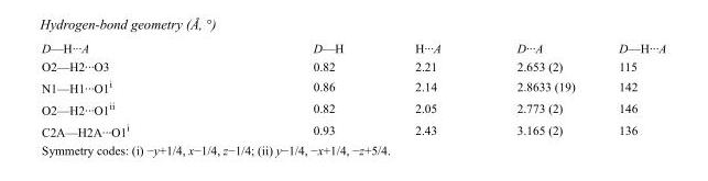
<table><tbody><tr><td>D—H···A</td><td>D—H</td><td>H···A</td><td>D···A</td><td>D—H···A</td></tr><tr><td>O2—H2···O3</td><td>0.82</td><td>2.21</td><td>2.653 (2)</td><td>115</td></tr><tr><td>N1—H1···O1<sup>i</sup></td><td>0.86</td><td>2.14</td><td>2.8633 (19)</td><td>142</td></tr><tr><td>O2—H2···O1<sup>ii</sup></td><td>0.82</td><td>2.05</td><td>2.773 (2)</td><td>146</td></tr><tr><td>C2A—H2A···O1<sup>i</sup></td><td>0.93</td><td>2.43</td><td>3.165 (2)</td><td>136</td></tr></tbody></table>